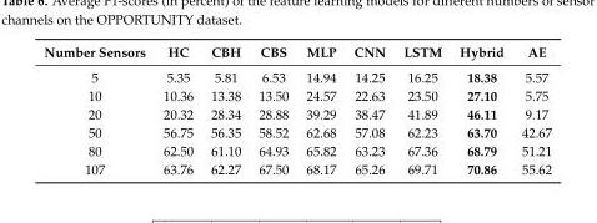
<table><thead><tr><td>Number Sensors</td><td>HC</td><td>CBH</td><td>CBS</td><td>MLP</td><td>CNN</td><td>LSTM</td><td>Hybrid</td><td>AE</td></tr></thead><tbody><tr><td>5</td><td>5.35</td><td>5.81</td><td>6.53</td><td>14.94</td><td>14.25</td><td>16.25</td><td>18.38</td><td>5.57</td></tr><tr><td>10</td><td>10.36</td><td>13.38</td><td>13.50</td><td>24.57</td><td>22.63</td><td>23.50</td><td>27.10</td><td>5.75</td></tr><tr><td>20</td><td>20.32</td><td>28.34</td><td>28.88</td><td>39.29</td><td>38.47</td><td>41.89</td><td>46.11</td><td>9.17</td></tr><tr><td>50</td><td>56.75</td><td>56.35</td><td>58.52</td><td>62.68</td><td>57.08</td><td>62.23</td><td>63.70</td><td>42.67</td></tr><tr><td>80</td><td>62.50</td><td>61.10</td><td>64.93</td><td>65.82</td><td>63.23</td><td>67.36</td><td>68.79</td><td>51.21</td></tr><tr><td>107</td><td>63.76</td><td>62.27</td><td>67.50</td><td>68.17</td><td>65.26</td><td>69.71</td><td>70.86</td><td>55.62</td></tr></tbody></table>